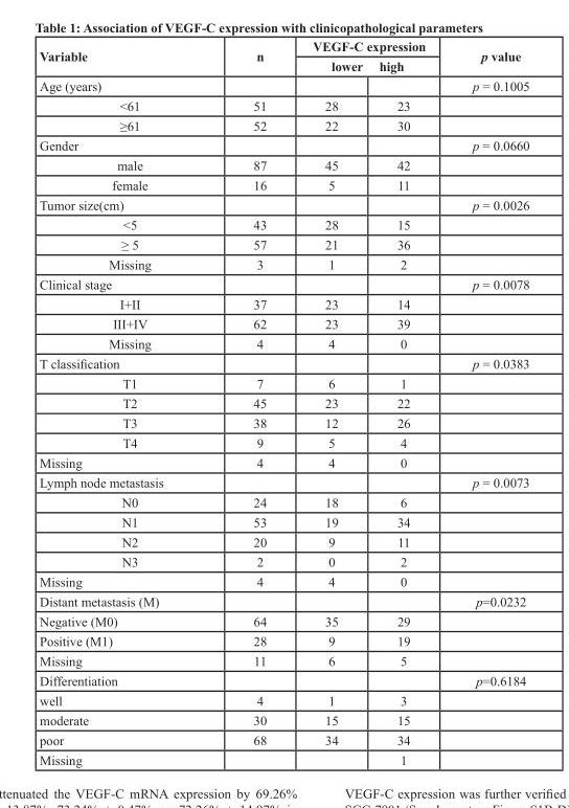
<table><thead><tr><td rowspan="2">Variable</td><td rowspan="2">n</td><td colspan="2">VEGF-C expression</td><td rowspan="2">p value</td></tr><tr><td>lower</td><td>high</td></tr></thead><tbody><tr><td>Age (years)</td><td></td><td></td><td></td><td>p = 0.1005</td></tr><tr><td>&lt;61</td><td>51</td><td>28</td><td>23</td><td></td></tr><tr><td>≥61</td><td>52</td><td>22</td><td>30</td><td></td></tr><tr><td>Gender</td><td></td><td></td><td></td><td>p = 0.0660</td></tr><tr><td>male</td><td>87</td><td>45</td><td>42</td><td></td></tr><tr><td>female</td><td>16</td><td>5</td><td>11</td><td></td></tr><tr><td>Tumor size(cm)</td><td></td><td></td><td></td><td>p = 0.0026</td></tr><tr><td>&lt;5</td><td>43</td><td>28</td><td>15</td><td></td></tr><tr><td>≥ 5</td><td>57</td><td>21</td><td>36</td><td></td></tr><tr><td>Missing</td><td>3</td><td>1</td><td>2</td><td></td></tr><tr><td>Clinical stage</td><td></td><td></td><td></td><td>p = 0.0078</td></tr><tr><td>I+II</td><td>37</td><td>23</td><td>14</td><td></td></tr><tr><td>III+IV</td><td>62</td><td>23</td><td>39</td><td></td></tr><tr><td>Missing</td><td>4</td><td>4</td><td>0</td><td></td></tr><tr><td>T classification</td><td></td><td></td><td></td><td>p = 0.0383</td></tr><tr><td>T1</td><td>7</td><td>6</td><td>1</td><td></td></tr><tr><td>T2</td><td>45</td><td>23</td><td>22</td><td></td></tr><tr><td>T3</td><td>38</td><td>12</td><td>26</td><td></td></tr><tr><td>T4</td><td>9</td><td>5</td><td>4</td><td></td></tr><tr><td>Missing</td><td>4</td><td>4</td><td>0</td><td></td></tr><tr><td>Lymph node metastasis</td><td></td><td></td><td></td><td>p = 0.0073</td></tr><tr><td>N0</td><td>24</td><td>18</td><td>6</td><td></td></tr><tr><td>N1</td><td>53</td><td>19</td><td>34</td><td></td></tr><tr><td>N2</td><td>20</td><td>9</td><td>11</td><td></td></tr><tr><td>N3</td><td>2</td><td>0</td><td>2</td><td></td></tr><tr><td>Missing</td><td>4</td><td>4</td><td>0</td><td></td></tr><tr><td>Distant metastasis (M)</td><td></td><td></td><td></td><td>p=0.0232</td></tr><tr><td>Negative (M0)</td><td>64</td><td>35</td><td>29</td><td></td></tr><tr><td>Positive (M1)</td><td>28</td><td>9</td><td>19</td><td></td></tr><tr><td>Missing</td><td>11</td><td>6</td><td>5</td><td></td></tr><tr><td>Differentiation</td><td></td><td></td><td></td><td>p=0.6184</td></tr><tr><td>well</td><td>4</td><td>1</td><td>3</td><td></td></tr><tr><td>moderate</td><td>30</td><td>15</td><td>15</td><td></td></tr><tr><td>poor</td><td>68</td><td>34</td><td>34</td><td></td></tr><tr><td>Missing</td><td></td><td></td><td>1</td><td></td></tr></tbody></table>